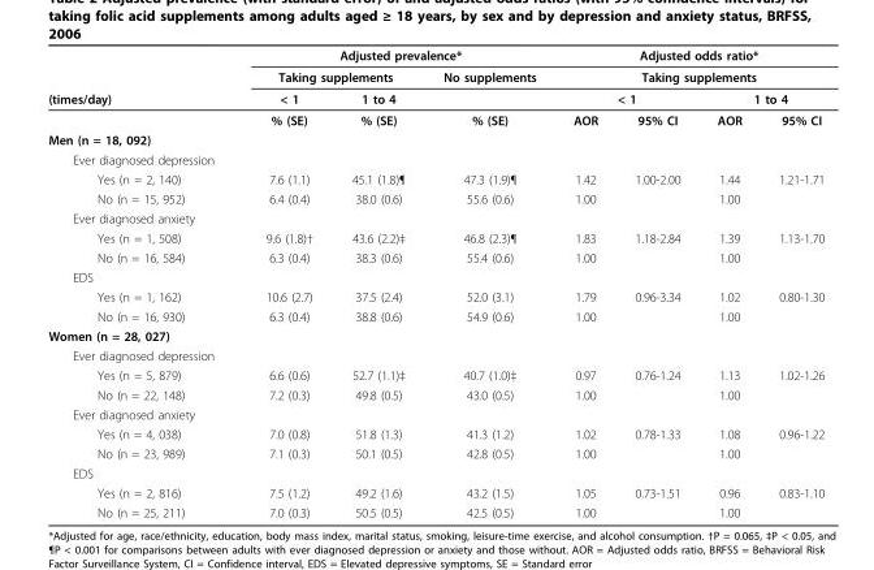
<table><thead><tr><td rowspan="4">(times/day)</td><td colspan="3">Adjusted prevalence*</td><td rowspan="2" colspan="4">Adjusted odds ratio* Taking supplements</td></tr><tr><td colspan="2">Taking supplements</td><td rowspan="3">No supplements % (SE)</td></tr><tr><td rowspan="2">&lt; 1 % (SE)</td><td rowspan="2">1 to 4 % (SE)</td><td colspan="2">&lt; 1</td><td colspan="2">1 to 4</td></tr><tr><td>AOR</td><td>95% CI</td><td>AOR</td><td>95% CI</td></tr></thead><tbody><tr><td colspan="8">Men (n = 18, 092)</td></tr><tr><td colspan="8">Ever diagnosed depression</td></tr><tr><td>Yes (n = 2, 140)</td><td>7.6 (1.1)</td><td>45.1 (1.8)¶</td><td>47.3 (1.9)¶</td><td>1.42</td><td>1.00-2.00</td><td>1.44</td><td>1.21-1.71</td></tr><tr><td>No (n = 15, 952)</td><td>6.4 (0.4)</td><td>38.0 (0.6)</td><td>55.6 (0.6)</td><td>1.00</td><td></td><td>1.00</td><td></td></tr><tr><td colspan="8">Ever diagnosed anxiety</td></tr><tr><td>Yes (n = 1, 508)</td><td>9.6 (1.8)†</td><td>43.6 (2.2)‡</td><td>46.8 (2.3)¶</td><td>1.83</td><td>1.18-2.84</td><td>1.39</td><td>1.13-1.70</td></tr><tr><td>No (n = 16, 584)</td><td>6.3 (0.4)</td><td>38.3 (0.6)</td><td>55.4 (0.6)</td><td>1.00</td><td></td><td>1.00</td><td></td></tr><tr><td colspan="8">EDS</td></tr><tr><td>Yes (n = 1, 162)</td><td>10.6 (2.7)</td><td>37.5 (2.4)</td><td>52.0 (3.1)</td><td>1.79</td><td>0.96-3.34</td><td>1.02</td><td>0.80-1.30</td></tr><tr><td>No (n = 16, 930)</td><td>6.3 (0.4)</td><td>38.8 (0.6)</td><td>54.9 (0.6)</td><td>1.00</td><td></td><td>1.00</td><td></td></tr><tr><td colspan="8">Women (n = 28, 027)</td></tr><tr><td colspan="8">Ever diagnosed depression</td></tr><tr><td>Yes (n = 5, 879)</td><td>6.6 (0.6)</td><td>52.7 (1.1)‡</td><td>40.7 (1.0)‡</td><td>0.97</td><td>0.76-1.24</td><td>1.13</td><td>1.02-1.26</td></tr><tr><td>No (n = 22, 148)</td><td>7.2 (0.3)</td><td>49.8 (0.5)</td><td>43.0 (0.5)</td><td>1.00</td><td></td><td>1.00</td><td></td></tr><tr><td colspan="8">Ever diagnosed anxiety</td></tr><tr><td>Yes (n = 4, 038)</td><td>7.0 (0.8)</td><td>51.8 (1.3)</td><td>41.3 (1.2)</td><td>1.02</td><td>0.78-1.33</td><td>1.08</td><td>0.96-1.22</td></tr><tr><td>No (n = 23, 989)</td><td>7.1 (0.3)</td><td>50.1 (0.5)</td><td>42.8 (0.5)</td><td>1.00</td><td></td><td>1.00</td><td></td></tr><tr><td colspan="8">EDS</td></tr><tr><td>Yes (n = 2, 816)</td><td>7.5 (1.2)</td><td>49.2 (1.6)</td><td>43.2 (1.5)</td><td>1.05</td><td>0.73-1.51</td><td>0.96</td><td>0.83-1.10</td></tr><tr><td>No (n = 25, 211)</td><td>7.0 (0.3)</td><td>50.5 (0.5)</td><td>42.5 (0.5)</td><td>1.00</td><td></td><td>1.00</td><td></td></tr></tbody></table>